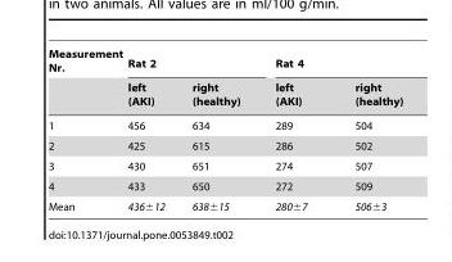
<table><thead><tr><td rowspan="2">Measurement Nr.</td><td colspan="2">Rat 2</td><td colspan="2">Rat 4</td></tr><tr><td>left (AKI)</td><td>right (healthy)</td><td>left (AKI)</td><td>right (healthy)</td></tr></thead><tbody><tr><td>1</td><td>456</td><td>634</td><td>289</td><td>504</td></tr><tr><td>2</td><td>425</td><td>615</td><td>286</td><td>502</td></tr><tr><td>3</td><td>430</td><td>651</td><td>274</td><td>507</td></tr><tr><td>4</td><td>433</td><td>650</td><td>272</td><td>509</td></tr><tr><td>Mean</td><td>436±12</td><td>638±15</td><td>280±7</td><td>506±3</td></tr></tbody></table>